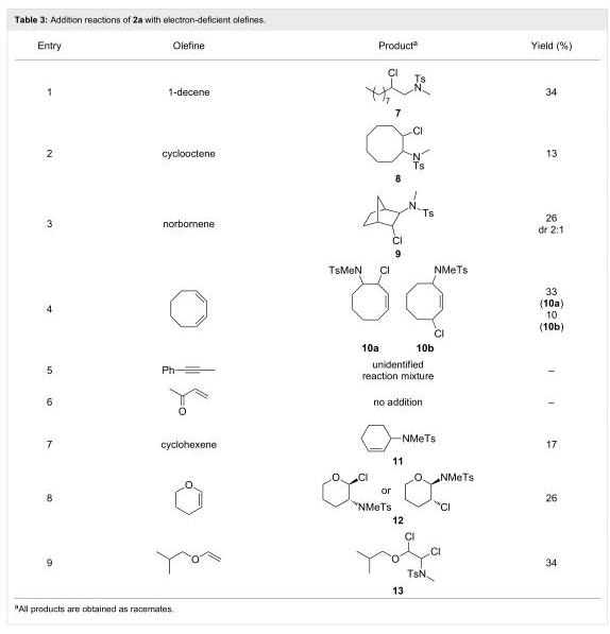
<table><tbody><tr><td>Entry</td><td>Olefine</td><td>Product<sup>a</sup></td><td>Yield (%)</td></tr><tr><td>1</td><td>1-decene</td><td>7</td><td>34</td></tr><tr><td>2</td><td>cyclooctene</td><td>8</td><td>13</td></tr><tr><td>3</td><td>norbornene</td><td>9</td><td>26 dr 2:1</td></tr><tr><td>4</td><td></td><td></td><td>33 (10a) 10 (10b)</td></tr><tr><td>5</td><td></td><td>unidentified reaction mixture</td><td>–</td></tr><tr><td>6</td><td></td><td>no addition</td><td>–</td></tr><tr><td>7</td><td>cyclohexene</td><td>11</td><td>17</td></tr><tr><td>8</td><td></td><td>12</td><td>26</td></tr><tr><td>9</td><td></td><td>13</td><td>34</td></tr></tbody></table>